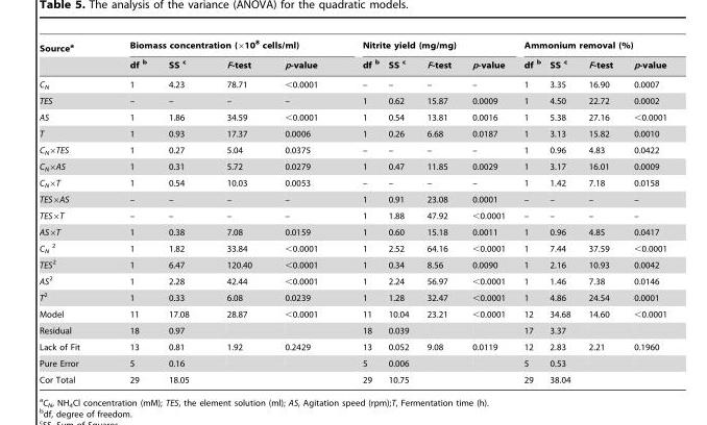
<table><thead><tr><td rowspan="2">Source<sup>a</sup></td><td colspan="4">Biomass concentration (×10<sup>8</sup> cells/ml)</td><td colspan="4">Nitrite yield (mg/mg)</td><td colspan="4">Ammonium removal (%)</td></tr><tr><td>df b</td><td>SS c</td><td>F-test</td><td>p-value</td><td>df b</td><td>SS c</td><td>F-test</td><td>p-value</td><td>df b</td><td>SS c</td><td>F-test</td><td>p-value</td></tr></thead><tbody><tr><td>C<sub>N</sub></td><td>1</td><td>4.23</td><td>78.71</td><td>&lt;0.0001</td><td>–</td><td>–</td><td>–</td><td>–</td><td>1</td><td>3.35</td><td>16.90</td><td>0.0007</td></tr><tr><td>TES</td><td>–</td><td>–</td><td>–</td><td>–</td><td>1</td><td>0.62</td><td>15.87</td><td>0.0009</td><td>1</td><td>4.50</td><td>22.72</td><td>0.0002</td></tr><tr><td>AS</td><td>1</td><td>1.86</td><td>34.59</td><td>&lt;0.0001</td><td>1</td><td>0.54</td><td>13.81</td><td>0.0016</td><td>1</td><td>5.38</td><td>27.16</td><td>&lt;0.0001</td></tr><tr><td>T</td><td>1</td><td>0.93</td><td>17.37</td><td>0.0006</td><td>1</td><td>0.26</td><td>6.68</td><td>0.0187</td><td>1</td><td>3.13</td><td>15.82</td><td>0.0010</td></tr><tr><td>C<sub>N</sub>×TES</td><td>1</td><td>0.27</td><td>5.04</td><td>0.0375</td><td>–</td><td>–</td><td>–</td><td>–</td><td>1</td><td>0.96</td><td>4.83</td><td>0.0422</td></tr><tr><td>C<sub>N</sub>×AS</td><td>1</td><td>0.31</td><td>5.72</td><td>0.0279</td><td>1</td><td>0.47</td><td>11.85</td><td>0.0029</td><td>1</td><td>3.17</td><td>16.01</td><td>0.0009</td></tr><tr><td>C<sub>N</sub>×T</td><td>1</td><td>0.54</td><td>10.03</td><td>0.0053</td><td>–</td><td>–</td><td>–</td><td>–</td><td>1</td><td>1.42</td><td>7.18</td><td>0.0158</td></tr><tr><td>TES×AS</td><td>–</td><td>–</td><td>–</td><td>–</td><td>1</td><td>0.91</td><td>23.08</td><td>0.0001</td><td>–</td><td>–</td><td>–</td><td>–</td></tr><tr><td>TES×T</td><td>–</td><td>–</td><td>–</td><td>–</td><td>1</td><td>1.88</td><td>47.92</td><td>&lt;0.0001</td><td>–</td><td>–</td><td>–</td><td>–</td></tr><tr><td>AS×T</td><td>1</td><td>0.38</td><td>7.08</td><td>0.0159</td><td>1</td><td>0.60</td><td>15.18</td><td>0.0011</td><td>1</td><td>0.96</td><td>4.85</td><td>0.0417</td></tr><tr><td>C<sub>N</sub> <sup>2</sup></td><td>1</td><td>1.82</td><td>33.84</td><td>&lt;0.0001</td><td>1</td><td>2.52</td><td>64.16</td><td>&lt;0.0001</td><td>1</td><td>7.44</td><td>37.59</td><td>&lt;0.0001</td></tr><tr><td>TES<sup>2</sup></td><td>1</td><td>6.47</td><td>120.40</td><td>&lt;0.0001</td><td>1</td><td>0.34</td><td>8.56</td><td>0.0090</td><td>1</td><td>2.16</td><td>10.93</td><td>0.0042</td></tr><tr><td>AS<sup>2</sup></td><td>1</td><td>2.28</td><td>42.44</td><td>&lt;0.0001</td><td>1</td><td>2.24</td><td>56.97</td><td>&lt;0.0001</td><td>1</td><td>1.46</td><td>7.38</td><td>0.0146</td></tr><tr><td>T<sup>2</sup></td><td>1</td><td>0.33</td><td>6.08</td><td>0.0239</td><td>1</td><td>1.28</td><td>32.47</td><td>&lt;0.0001</td><td>1</td><td>4.86</td><td>24.54</td><td>0.0001</td></tr><tr><td>Model</td><td>11</td><td>17.08</td><td>28.87</td><td>&lt;0.0001</td><td>11</td><td>10.04</td><td>23.21</td><td>&lt;0.0001</td><td>12</td><td>34.68</td><td>14.60</td><td>&lt;0.0001</td></tr><tr><td>Residual</td><td>18</td><td>0.97</td><td></td><td></td><td>18</td><td>0.039</td><td></td><td></td><td>17</td><td>3.37</td><td></td><td></td></tr><tr><td>Lack of Fit</td><td>13</td><td>0.81</td><td>1.92</td><td>0.2429</td><td>13</td><td>0.052</td><td>9.08</td><td>0.0119</td><td>12</td><td>2.83</td><td>2.21</td><td>0.1960</td></tr><tr><td>Pure Error</td><td>5</td><td>0.16</td><td></td><td></td><td>5</td><td>0.006</td><td></td><td></td><td>5</td><td>0.53</td><td></td><td></td></tr><tr><td>Cor Total</td><td>29</td><td>18.05</td><td></td><td></td><td>29</td><td>10.75</td><td></td><td></td><td>29</td><td>38.04</td><td></td><td></td></tr></tbody></table>